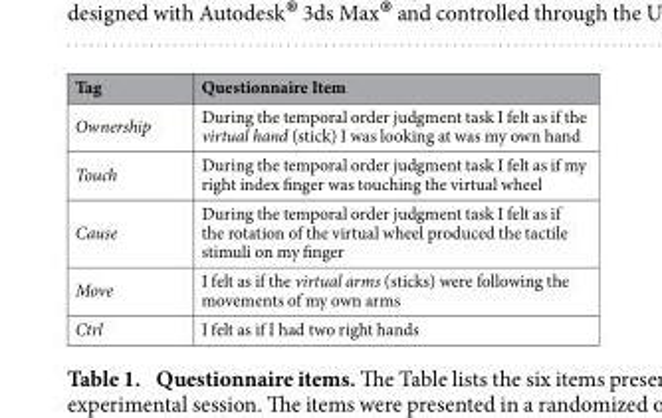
<table><thead><tr><td>Tag</td><td>Questionnaire Item</td></tr></thead><tbody><tr><td>Ownership</td><td>During the temporal order judgment task I felt as if the virtual hand (stick) I was looking at was my own hand</td></tr><tr><td>Touch</td><td>During the temporal order judgment task I felt as if my right index finger was touching the virtual wheel</td></tr><tr><td>Cause</td><td>During the temporal order judgment task I felt as if the rotation of the virtual wheel produced the tactile stimuli on my finger</td></tr><tr><td>Move</td><td>I felt as if the virtual arms (sticks) were following the movements of my own arms</td></tr><tr><td>Ctrl</td><td>I felt as if I had two right hands</td></tr></tbody></table>